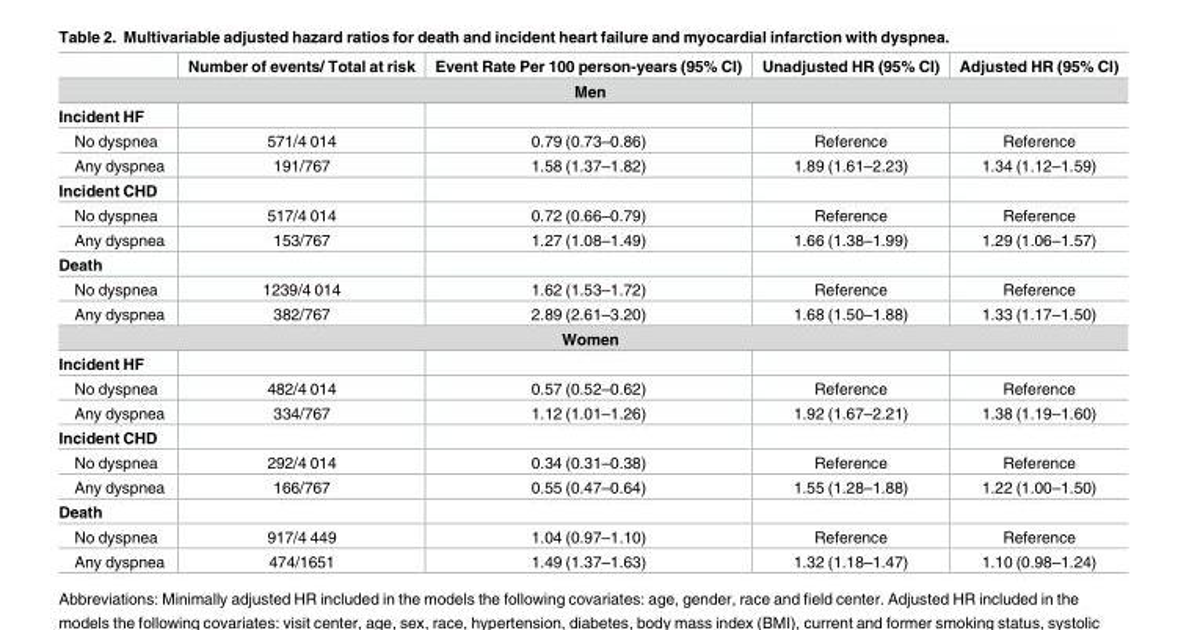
<table><thead><tr><td></td><td>Number of events/ Total at risk</td><td>Event Rate Per 100 person-years (95% CI)</td><td>Unadjusted HR (95% CI)</td><td>Adjusted HR (95% CI)</td></tr></thead><tbody><tr><td colspan="5">Men</td></tr><tr><td colspan="5">Incident HF</td></tr><tr><td>No dyspnea</td><td>571/4 014</td><td>0.79 (0.73–0.86)</td><td>Reference</td><td>Reference</td></tr><tr><td>Any dyspnea</td><td>191/767</td><td>1.58 (1.37–1.82)</td><td>1.89 (1.61–2.23)</td><td>1.34 (1.12–1.59)</td></tr><tr><td colspan="5">Incident CHD</td></tr><tr><td>No dyspnea</td><td>517/4 014</td><td>0.72 (0.66–0.79)</td><td>Reference</td><td>Reference</td></tr><tr><td>Any dyspnea</td><td>153/767</td><td>1.27 (1.08–1.49)</td><td>1.66 (1.38–1.99)</td><td>1.29 (1.06–1.57)</td></tr><tr><td colspan="5">Death</td></tr><tr><td>No dyspnea</td><td>1239/4 014</td><td>1.62 (1.53–1.72)</td><td>Reference</td><td>Reference</td></tr><tr><td>Any dyspnea</td><td>382/767</td><td>2.89 (2.61–3.20)</td><td>1.68 (1.50–1.88)</td><td>1.33 (1.17–1.50)</td></tr><tr><td colspan="5">Women</td></tr><tr><td colspan="5">Incident HF</td></tr><tr><td>No dyspnea</td><td>482/4 014</td><td>0.57 (0.52–0.62)</td><td>Reference</td><td>Reference</td></tr><tr><td>Any dyspnea</td><td>334/767</td><td>1.12 (1.01–1.26)</td><td>1.92 (1.67–2.21)</td><td>1.38 (1.19–1.60)</td></tr><tr><td colspan="5">Incident CHD</td></tr><tr><td>No dyspnea</td><td>292/4 014</td><td>0.34 (0.31–0.38)</td><td>Reference</td><td>Reference</td></tr><tr><td>Any dyspnea</td><td>166/767</td><td>0.55 (0.47–0.64)</td><td>1.55 (1.28–1.88)</td><td>1.22 (1.00–1.50)</td></tr><tr><td colspan="5">Death</td></tr><tr><td>No dyspnea</td><td>917/4 449</td><td>1.04 (0.97–1.10)</td><td>Reference</td><td>Reference</td></tr><tr><td>Any dyspnea</td><td>474/1651</td><td>1.49 (1.37–1.63)</td><td>1.32 (1.18–1.47)</td><td>1.10 (0.98–1.24)</td></tr></tbody></table>